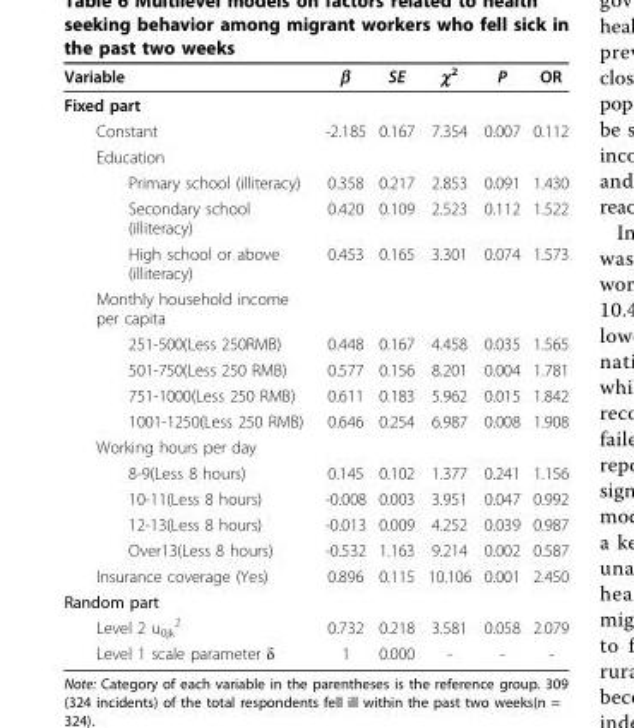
<table><thead><tr><td>Variable</td><td>β</td><td>SE</td><td>χ<sup>2</sup></td><td>P</td><td>OR</td></tr></thead><tbody><tr><td colspan="6">Fixed part</td></tr><tr><td>Constant</td><td>-2.185</td><td>0.167</td><td>7.354</td><td>0.007</td><td>0.112</td></tr><tr><td colspan="6">Education</td></tr><tr><td>Primary school (illiteracy)</td><td>0.358</td><td>0.217</td><td>2.853</td><td>0.091</td><td>1.430</td></tr><tr><td>Secondary school (illiteracy)</td><td>0.420</td><td>0.109</td><td>2.523</td><td>0.112</td><td>1.522</td></tr><tr><td>High school or above (illiteracy)</td><td>0.453</td><td>0.165</td><td>3.301</td><td>0.074</td><td>1.573</td></tr><tr><td colspan="6">Monthly household income per capita</td></tr><tr><td>251-500(Less 250RMB)</td><td>0.448</td><td>0.167</td><td>4.458</td><td>0.035</td><td>1.565</td></tr><tr><td>501-750(Less 250 RMB)</td><td>0.577</td><td>0.156</td><td>8.201</td><td>0.004</td><td>1.781</td></tr><tr><td>751-1000(Less 250 RMB)</td><td>0.611</td><td>0.183</td><td>5.962</td><td>0.015</td><td>1.842</td></tr><tr><td>1001-1250(Less 250 RMB)</td><td>0.646</td><td>0.254</td><td>6.987</td><td>0.008</td><td>1.908</td></tr><tr><td colspan="6">Working hours per day</td></tr><tr><td>8-9(Less 8 hours)</td><td>0.145</td><td>0.102</td><td>1.377</td><td>0.241</td><td>1.156</td></tr><tr><td>10-11(Less 8 hours)</td><td>-0.008</td><td>0.003</td><td>3.951</td><td>0.047</td><td>0.992</td></tr><tr><td>12-13(Less 8 hours)</td><td>-0.013</td><td>0.009</td><td>4.252</td><td>0.039</td><td>0.987</td></tr><tr><td>Over13(Less 8 hours)</td><td>-0.532</td><td>1.163</td><td>9.214</td><td>0.002</td><td>0.587</td></tr><tr><td>Insurance coverage (Yes)</td><td>0.896</td><td>0.115</td><td>10.106</td><td>0.001</td><td>2.450</td></tr><tr><td colspan="6">Random part</td></tr><tr><td>Level 2 u<sub>0jk</sub> <sup>2</sup></td><td>0.732</td><td>0.218</td><td>3.581</td><td>0.058</td><td>2.079</td></tr><tr><td>Level 1 scale parameter δ</td><td>1</td><td>0.000</td><td>-</td><td>-</td><td>-</td></tr></tbody></table>